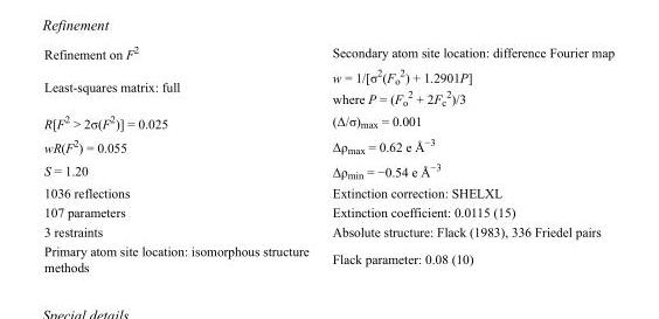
<table><tbody><tr><td>Refinement on F<sup>2</sup></td><td>Secondary atom site location: difference Fourier map</td></tr><tr><td>Least-squares matrix: full</td><td>w = 1/[σ<sup>2</sup>(F<sub>o</sub> <sup>2</sup>) + 1.2901P] where P = (F<sub>o</sub> <sup>2</sup> + 2F<sub>c</sub> <sup>2</sup>)/3</td></tr><tr><td>R[F<sup>2</sup> &gt; 2σ(F<sup>2</sup>)] = 0.025</td><td>(Δ/σ)<sub>max</sub> = 0.001</td></tr><tr><td>wR(F<sup>2</sup>) = 0.055</td><td>Δρ<sub>max</sub> = 0.62 e Å<sup>−3</sup></td></tr><tr><td>S = 1.20</td><td>Δρ<sub>min</sub> = −0.54 e Å<sup>−3</sup></td></tr><tr><td>1036 reflections</td><td>Extinction correction: SHELXL</td></tr><tr><td>107 parameters</td><td>Extinction coefficient: 0.0115 (15)</td></tr><tr><td>3 restraints</td><td>Absolute structure: Flack (1983), 336 Friedel pairs</td></tr><tr><td>Primary atom site location: isomorphous structure methods</td><td>Flack parameter: 0.08 (10)</td></tr></tbody></table>